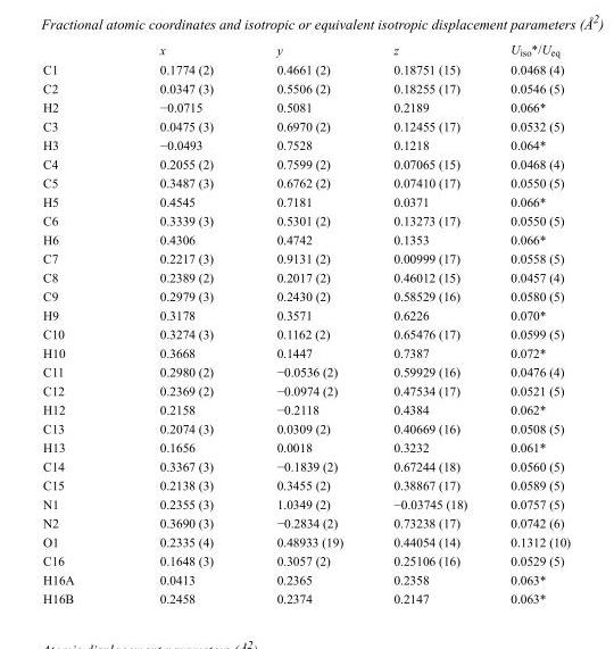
<table><thead><tr><td></td><td>x</td><td>y</td><td>z</td><td>U<sub>iso</sub>*/U<sub>eq</sub></td></tr></thead><tbody><tr><td>C1</td><td>0.1774 (2)</td><td>0.4661 (2)</td><td>0.18751 (15)</td><td>0.0468 (4)</td></tr><tr><td>C2</td><td>0.0347 (3)</td><td>0.5506 (2)</td><td>0.18255 (17)</td><td>0.0546 (5)</td></tr><tr><td>H2</td><td>−0.0715</td><td>0.5081</td><td>0.2189</td><td>0.066*</td></tr><tr><td>C3</td><td>0.0475 (3)</td><td>0.6970 (2)</td><td>0.12455 (17)</td><td>0.0532 (5)</td></tr><tr><td>H3</td><td>−0.0493</td><td>0.7528</td><td>0.1218</td><td>0.064*</td></tr><tr><td>C4</td><td>0.2055 (2)</td><td>0.7599 (2)</td><td>0.07065 (15)</td><td>0.0468 (4)</td></tr><tr><td>C5</td><td>0.3487 (3)</td><td>0.6762 (2)</td><td>0.07410 (17)</td><td>0.0550 (5)</td></tr><tr><td>H5</td><td>0.4545</td><td>0.7181</td><td>0.0371</td><td>0.066*</td></tr><tr><td>C6</td><td>0.3339 (3)</td><td>0.5301 (2)</td><td>0.13273 (17)</td><td>0.0550 (5)</td></tr><tr><td>H6</td><td>0.4306</td><td>0.4742</td><td>0.1353</td><td>0.066*</td></tr><tr><td>C7</td><td>0.2217 (3)</td><td>0.9131 (2)</td><td>0.00999 (17)</td><td>0.0558 (5)</td></tr><tr><td>C8</td><td>0.2389 (2)</td><td>0.2017 (2)</td><td>0.46012 (15)</td><td>0.0457 (4)</td></tr><tr><td>C9</td><td>0.2979 (3)</td><td>0.2430 (2)</td><td>0.58529 (16)</td><td>0.0580 (5)</td></tr><tr><td>H9</td><td>0.3178</td><td>0.3571</td><td>0.6226</td><td>0.070*</td></tr><tr><td>C10</td><td>0.3274 (3)</td><td>0.1162 (2)</td><td>0.65476 (17)</td><td>0.0599 (5)</td></tr><tr><td>H10</td><td>0.3668</td><td>0.1447</td><td>0.7387</td><td>0.072*</td></tr><tr><td>C11</td><td>0.2980 (2)</td><td>−0.0536 (2)</td><td>0.59929 (16)</td><td>0.0476 (4)</td></tr><tr><td>C12</td><td>0.2369 (2)</td><td>−0.0974 (2)</td><td>0.47534 (17)</td><td>0.0521 (5)</td></tr><tr><td>H12</td><td>0.2158</td><td>−0.2118</td><td>0.4384</td><td>0.062*</td></tr><tr><td>C13</td><td>0.2074 (3)</td><td>0.0309 (2)</td><td>0.40669 (16)</td><td>0.0508 (5)</td></tr><tr><td>H13</td><td>0.1656</td><td>0.0018</td><td>0.3232</td><td>0.061*</td></tr><tr><td>C14</td><td>0.3367 (3)</td><td>−0.1839 (2)</td><td>0.67244 (18)</td><td>0.0560 (5)</td></tr><tr><td>C15</td><td>0.2138 (3)</td><td>0.3455 (2)</td><td>0.38867 (17)</td><td>0.0589 (5)</td></tr><tr><td>N1</td><td>0.2355 (3)</td><td>1.0349 (2)</td><td>−0.03745 (18)</td><td>0.0757 (5)</td></tr><tr><td>N2</td><td>0.3690 (3)</td><td>−0.2834 (2)</td><td>0.73238 (17)</td><td>0.0742 (6)</td></tr><tr><td>O1</td><td>0.2335 (4)</td><td>0.48933 (19)</td><td>0.44054 (14)</td><td>0.1312 (10)</td></tr><tr><td>C16</td><td>0.1648 (3)</td><td>0.3057 (2)</td><td>0.25106 (16)</td><td>0.0529 (5)</td></tr><tr><td>H16A</td><td>0.0413</td><td>0.2365</td><td>0.2358</td><td>0.063*</td></tr><tr><td>H16B</td><td>0.2458</td><td>0.2374</td><td>0.2147</td><td>0.063*</td></tr></tbody></table>